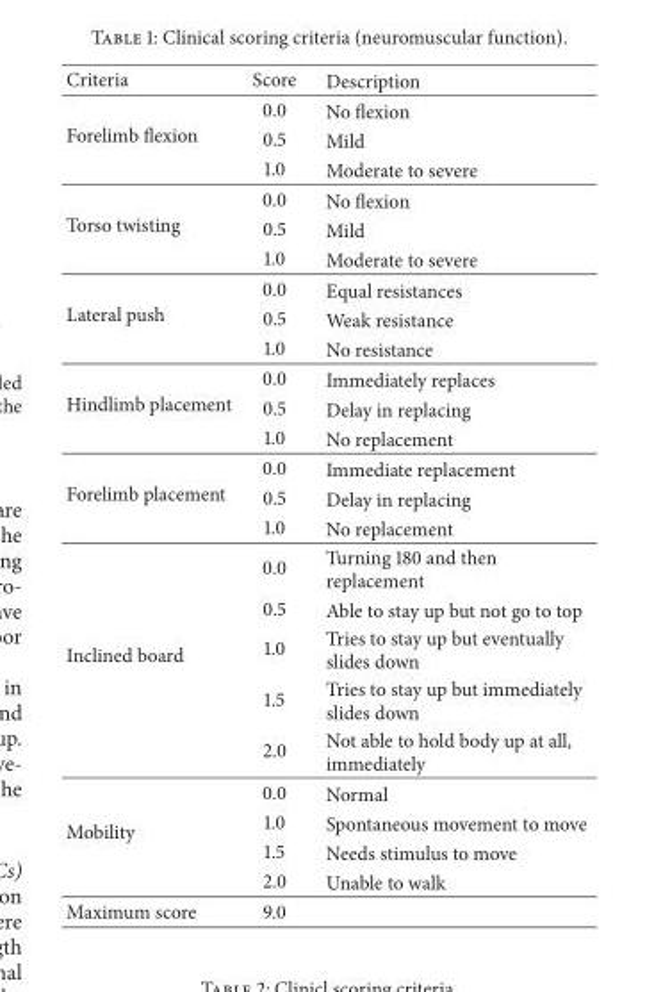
<table><thead><tr><td>Criteria</td><td>Score</td><td>Description</td></tr></thead><tbody><tr><td rowspan="3">Forelimb flexion</td><td>0.0</td><td>No flexion</td></tr><tr><td>0.5</td><td>Mild</td></tr><tr><td>1.0</td><td>Moderate to severe</td></tr><tr><td rowspan="3">Torso twisting</td><td>0.0</td><td>No flexion</td></tr><tr><td>0.5</td><td>Mild</td></tr><tr><td>1.0</td><td>Moderate to severe</td></tr><tr><td rowspan="3">Lateral push</td><td>0.0</td><td>Equal resistances</td></tr><tr><td>0.5</td><td>Weak resistance</td></tr><tr><td>1.0</td><td>No resistance</td></tr><tr><td rowspan="3">Hindlimb placement</td><td>0.0</td><td>Immediately replaces</td></tr><tr><td>0.5</td><td>Delay in replacing</td></tr><tr><td>1.0</td><td>No replacement</td></tr><tr><td rowspan="3">Forelimb placement</td><td>0.0</td><td>Immediate replacement</td></tr><tr><td>0.5</td><td>Delay in replacing</td></tr><tr><td>1.0</td><td>No replacement</td></tr><tr><td rowspan="5">Inclined board</td><td>0.0</td><td>Turning 180 and then replacement</td></tr><tr><td>0.5</td><td>Able to stay up but not go to top</td></tr><tr><td>1.0</td><td>Tries to stay up but eventually slides down</td></tr><tr><td>1.5</td><td>Tries to stay up but immediately slides down</td></tr><tr><td>2.0</td><td>Not able to hold body up at all, immediately</td></tr><tr><td rowspan="4">Mobility</td><td>0.0</td><td>Normal</td></tr><tr><td>1.0</td><td>Spontaneous movement to move</td></tr><tr><td>1.5</td><td>Needs stimulus to move</td></tr><tr><td>2.0</td><td>Unable to walk</td></tr><tr><td>Maximum score</td><td>9.0</td><td></td></tr></tbody></table>